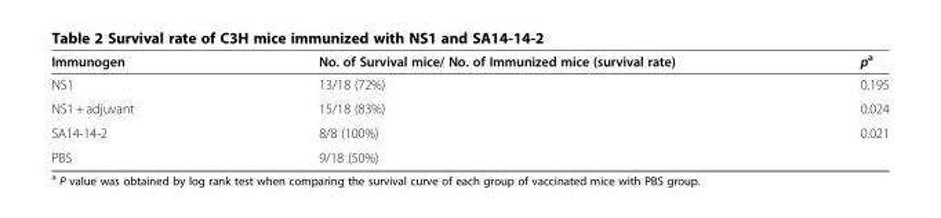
<table><thead><tr><td>Immunogen</td><td>No. of Survival mice/ No. of Immunized mice (survival rate)</td><td>p<sup>a</sup></td></tr></thead><tbody><tr><td>NS1</td><td>13/18 (72%)</td><td>0.195</td></tr><tr><td>NS1 + adjuvant</td><td>15/18 (83%)</td><td>0.024</td></tr><tr><td>SA14-14-2</td><td>8/8 (100%)</td><td>0.021</td></tr><tr><td>PBS</td><td>9/18 (50%)</td><td></td></tr></tbody></table>